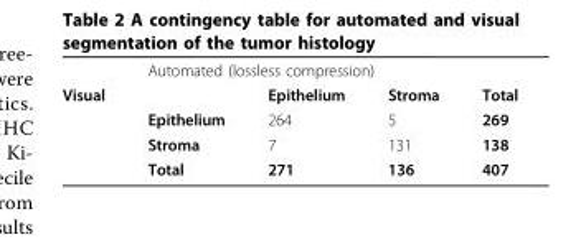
<table><thead><tr><td rowspan="2">Visual</td><td colspan="4">Automated (lossless compression)</td></tr><tr><td></td><td>Epithelium</td><td>Stroma</td><td>Total</td></tr></thead><tbody><tr><td></td><td>Epithelium</td><td>264</td><td>5</td><td>269</td></tr><tr><td></td><td>Stroma</td><td>7</td><td>131</td><td>138</td></tr><tr><td></td><td>Total</td><td>271</td><td>136</td><td>407</td></tr></tbody></table>